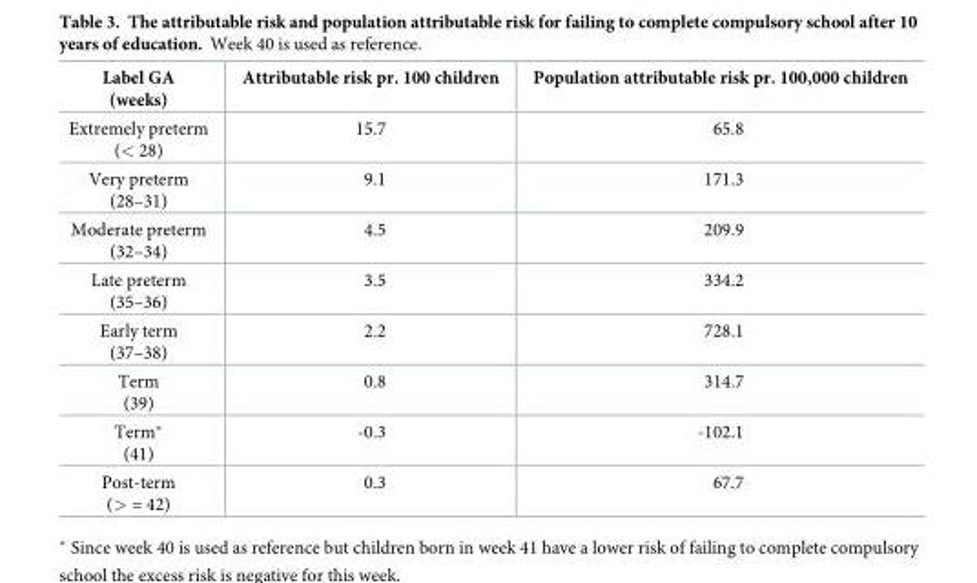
<table><tbody><tr><td>Label GA (weeks)</td><td>Attributable risk pr. 100 children</td><td>Population attributable risk pr. 100,000 children</td></tr><tr><td>Extremely preterm (&lt; 28)</td><td>15.7</td><td>65.8</td></tr><tr><td>Very preterm (28–31)</td><td>9.1</td><td>171.3</td></tr><tr><td>Moderate preterm (32–34)</td><td>4.5</td><td>209.9</td></tr><tr><td>Late preterm (35–36)</td><td>3.5</td><td>334.2</td></tr><tr><td>Early term (37–38)</td><td>2.2</td><td>728.1</td></tr><tr><td>Term (39)</td><td>0.8</td><td>314.7</td></tr><tr><td>Term* (41)</td><td>-0.3</td><td>-102.1</td></tr><tr><td>Post-term (&gt; = 42)</td><td>0.3</td><td>67.7</td></tr></tbody></table>